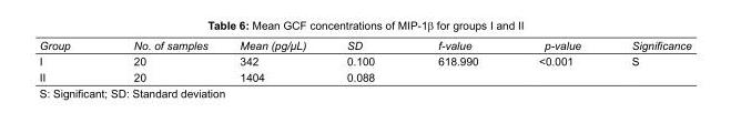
<table><tbody><tr><td>Group</td><td>No. of samples</td><td>Mean (pg/μL)</td><td>SD</td><td>f-value</td><td>p-value</td><td>Significance</td></tr><tr><td>I</td><td>20</td><td>342</td><td>0.100</td><td>618.990</td><td>&lt;0.001</td><td>S</td></tr><tr><td>II</td><td>20</td><td>1404</td><td>0.088</td><td></td><td></td><td></td></tr></tbody></table>